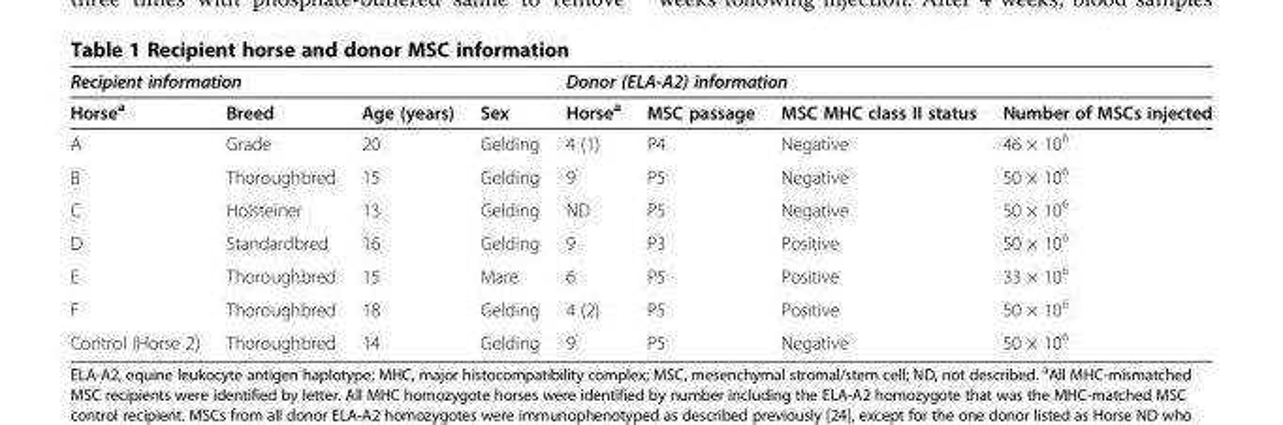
<table><thead><tr><td colspan="4">Recipient information</td><td colspan="4">Donor (ELA-A2) information</td></tr><tr><td>Horse<sup>a</sup></td><td>Breed</td><td>Age (years)</td><td>Sex</td><td>Horse<sup>a</sup></td><td>MSC passage</td><td>MSC MHC class II status</td><td>Number of MSCs injected</td></tr></thead><tbody><tr><td>A</td><td>Grade</td><td>20</td><td>Gelding</td><td>4 (1)</td><td>P4</td><td>Negative</td><td>46 × 10<sup>6</sup></td></tr><tr><td>B</td><td>Thoroughbred</td><td>15</td><td>Gelding</td><td>9</td><td>P5</td><td>Negative</td><td>50 × 10<sup>6</sup></td></tr><tr><td>C</td><td>Holsteiner</td><td>13</td><td>Gelding</td><td>ND</td><td>P5</td><td>Negative</td><td>50 × 10<sup>6</sup></td></tr><tr><td>D</td><td>Standardbred</td><td>16</td><td>Gelding</td><td>9</td><td>P3</td><td>Positive</td><td>50 × 10<sup>6</sup></td></tr><tr><td>E</td><td>Thoroughbred</td><td>15</td><td>Mare</td><td>6</td><td>P5</td><td>Positive</td><td>33 × 10<sup>6</sup></td></tr><tr><td>F</td><td>Thoroughbred</td><td>18</td><td>Gelding</td><td>4 (2)</td><td>P5</td><td>Positive</td><td>50 × 10<sup>6</sup></td></tr><tr><td>Control (Horse 2)</td><td>Thoroughbred</td><td>14</td><td>Gelding</td><td>9</td><td>P5</td><td>Negative</td><td>50 × 10<sup>6</sup></td></tr></tbody></table>